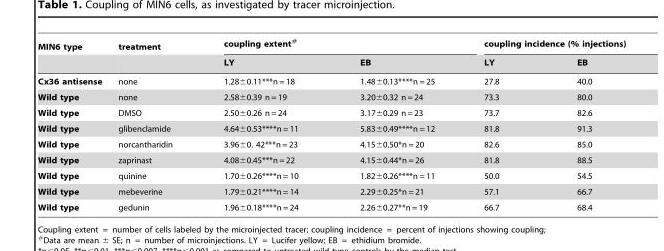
<table><thead><tr><td rowspan="2">MIN6 type</td><td rowspan="2">treatment</td><td colspan="2">coupling extent#</td><td colspan="2">coupling incidence (% injections)</td></tr><tr><td>LY</td><td>EB</td><td>LY</td><td>EB</td></tr></thead><tbody><tr><td>Cx36 antisense</td><td>none</td><td>1.28±0.11***n = 18</td><td>1.48±0.13****n = 25</td><td>27.8</td><td>40.0</td></tr><tr><td>Wild type</td><td>none</td><td>2.58±0.39 n = 19</td><td>3.20±0.32 n = 24</td><td>73.3</td><td>80.0</td></tr><tr><td>Wild type</td><td>DMSO</td><td>2.50±0.26 n = 24</td><td>3.17±0.29 n = 23</td><td>73.7</td><td>82.6</td></tr><tr><td>Wild type</td><td>glibenclamide</td><td>4.64±0.53****n = 11</td><td>5.83±0.49****n = 12</td><td>81.8</td><td>91.3</td></tr><tr><td>Wild type</td><td>norcantharidin</td><td>3.96±0. 42***n = 23</td><td>4.15±0.50*n = 20</td><td>82.6</td><td>85.0</td></tr><tr><td>Wild type</td><td>zaprinast</td><td>4.08±0.45***n = 22</td><td>4.15±0.44*n = 26</td><td>81.8</td><td>88.5</td></tr><tr><td>Wild type</td><td>quinine</td><td>1.70±0.26****n = 10</td><td>1.82±0.26****n = 11</td><td>50.0</td><td>54.5</td></tr><tr><td>Wild type</td><td>mebeverine</td><td>1.79±0.21****n = 14</td><td>2.29±0.25*n = 21</td><td>57.1</td><td>66.7</td></tr><tr><td>Wild type</td><td>gedunin</td><td>1.96±0.18****n = 24</td><td>2.26±0.27**n = 19</td><td>66.7</td><td>68.4</td></tr></tbody></table>